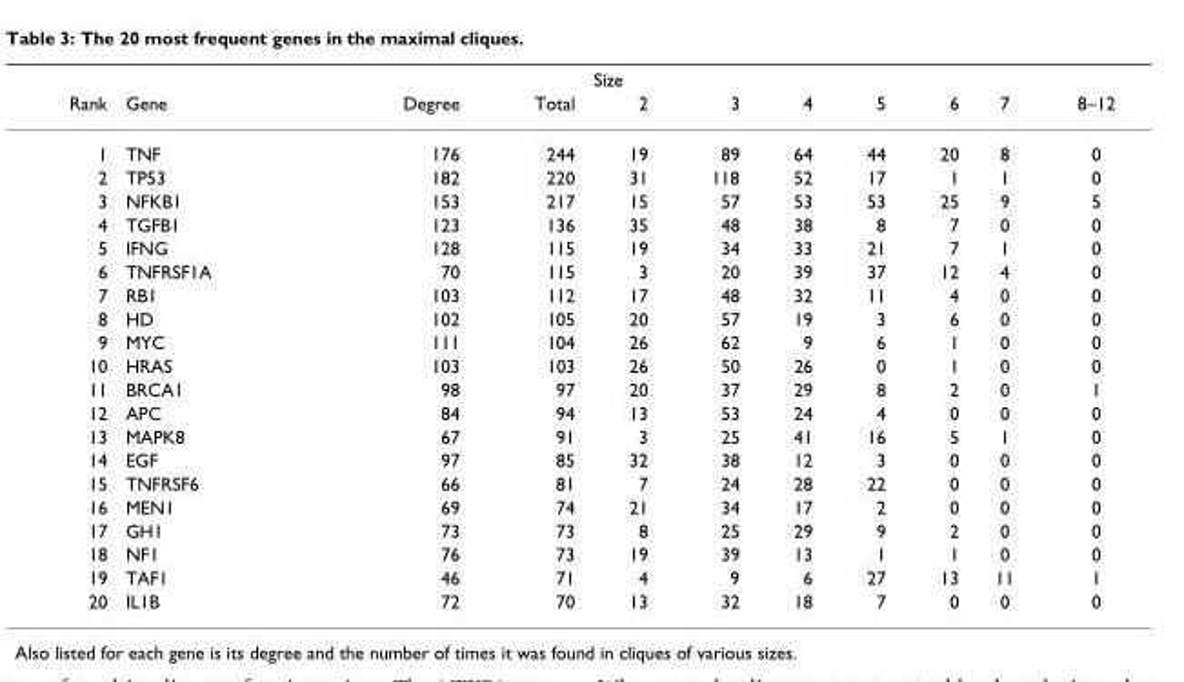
<table><thead><tr><td rowspan="2">Rank</td><td rowspan="2">Gene</td><td rowspan="2">Degree</td><td rowspan="2">Total</td><td colspan="7">Size</td></tr><tr><td>2</td><td>3</td><td>4</td><td>5</td><td>6</td><td>7</td><td>8–12</td></tr></thead><tbody><tr><td>1</td><td>TNF</td><td>176</td><td>244</td><td>19</td><td>89</td><td>64</td><td>44</td><td>20</td><td>8</td><td>0</td></tr><tr><td>2</td><td>TP53</td><td>182</td><td>220</td><td>31</td><td>118</td><td>52</td><td>17</td><td>1</td><td>1</td><td>0</td></tr><tr><td>3</td><td>NFKB1</td><td>153</td><td>217</td><td>15</td><td>57</td><td>53</td><td>53</td><td>25</td><td>9</td><td>5</td></tr><tr><td>4</td><td>TGFB1</td><td>123</td><td>136</td><td>35</td><td>48</td><td>38</td><td>8</td><td>7</td><td>0</td><td>0</td></tr><tr><td>5</td><td>IFNG</td><td>128</td><td>115</td><td>19</td><td>34</td><td>33</td><td>21</td><td>7</td><td>1</td><td>0</td></tr><tr><td>6</td><td>TNFRSF1A</td><td>70</td><td>115</td><td>3</td><td>20</td><td>39</td><td>37</td><td>12</td><td>4</td><td>0</td></tr><tr><td>7</td><td>RB1</td><td>103</td><td>112</td><td>17</td><td>48</td><td>32</td><td>11</td><td>4</td><td>0</td><td>0</td></tr><tr><td>8</td><td>HD</td><td>102</td><td>105</td><td>20</td><td>57</td><td>19</td><td>3</td><td>6</td><td>0</td><td>0</td></tr><tr><td>9</td><td>MYC</td><td>111</td><td>104</td><td>26</td><td>62</td><td>9</td><td>6</td><td>1</td><td>0</td><td>0</td></tr><tr><td>10</td><td>HRAS</td><td>103</td><td>103</td><td>26</td><td>50</td><td>26</td><td>0</td><td>1</td><td>0</td><td>0</td></tr><tr><td>11</td><td>BRCA1</td><td>98</td><td>97</td><td>20</td><td>37</td><td>29</td><td>8</td><td>2</td><td>0</td><td>1</td></tr><tr><td>12</td><td>APC</td><td>84</td><td>94</td><td>13</td><td>53</td><td>24</td><td>4</td><td>0</td><td>0</td><td>0</td></tr><tr><td>13</td><td>MAPK8</td><td>67</td><td>91</td><td>3</td><td>25</td><td>41</td><td>16</td><td>5</td><td>1</td><td>0</td></tr><tr><td>14</td><td>EGF</td><td>97</td><td>85</td><td>32</td><td>38</td><td>12</td><td>3</td><td>0</td><td>0</td><td>0</td></tr><tr><td>15</td><td>TNFRSF6</td><td>66</td><td>81</td><td>7</td><td>24</td><td>28</td><td>22</td><td>0</td><td>0</td><td>0</td></tr><tr><td>16</td><td>MEN1</td><td>69</td><td>74</td><td>21</td><td>34</td><td>17</td><td>2</td><td>0</td><td>0</td><td>0</td></tr><tr><td>17</td><td>GH1</td><td>73</td><td>73</td><td>8</td><td>25</td><td>29</td><td>9</td><td>2</td><td>0</td><td>0</td></tr><tr><td>18</td><td>NF1</td><td>76</td><td>73</td><td>19</td><td>39</td><td>13</td><td>1</td><td>1</td><td>0</td><td>0</td></tr><tr><td>19</td><td>TAF1</td><td>46</td><td>71</td><td>4</td><td>9</td><td>6</td><td>27</td><td>13</td><td>11</td><td>1</td></tr><tr><td>20</td><td>IL1B</td><td>72</td><td>70</td><td>13</td><td>32</td><td>18</td><td>7</td><td>0</td><td>0</td><td>0</td></tr></tbody></table>